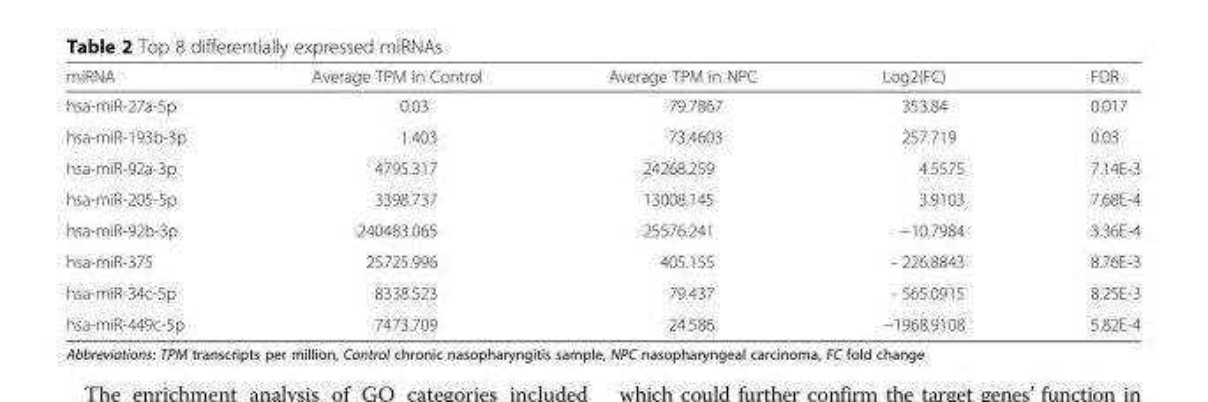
<table><thead><tr><td>miRNA</td><td>Average TPM in Control</td><td>Average TPM in NPC</td><td>Log2(FC)</td><td>FDR</td></tr></thead><tbody><tr><td>hsa-miR-27a-5p</td><td>0.03</td><td>79.7867</td><td>353.84</td><td>0.017</td></tr><tr><td>hsa-miR-193b-3p</td><td>1.403</td><td>73.4603</td><td>257.719</td><td>0.03</td></tr><tr><td>hsa-miR-92a-3p</td><td>4795.317</td><td>24268.259</td><td>4.5575</td><td>7.14E-3</td></tr><tr><td>hsa-miR-205-5p</td><td>3398.737</td><td>13008.145</td><td>3.9103</td><td>7.68E-4</td></tr><tr><td>hsa-miR-92b-3p</td><td>240483.065</td><td>25576.241</td><td>−10.7984</td><td>3.36E-4</td></tr><tr><td>hsa-miR-375</td><td>25725.996</td><td>405.155</td><td>- 226.8843</td><td>8.76E-3</td></tr><tr><td>hsa-miR-34c-5p</td><td>8338.523</td><td>79.437</td><td>- 565.0915</td><td>8.25E-3</td></tr><tr><td>hsa-miR-449c-5p</td><td>7473.709</td><td>24.586</td><td>−1968.9108</td><td>5.82E-4</td></tr></tbody></table>